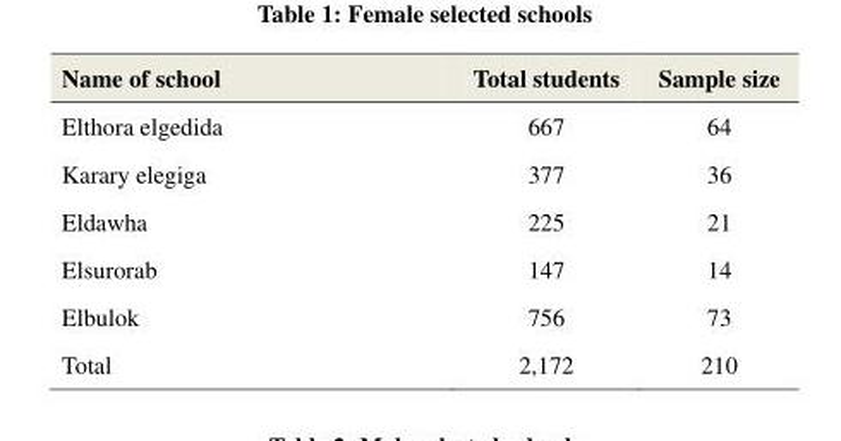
<table><thead><tr><td>Name of school</td><td>Total students</td><td>Sample size</td></tr></thead><tbody><tr><td>Elthora elgedida</td><td>667</td><td>64</td></tr><tr><td>Karary elegiga</td><td>377</td><td>36</td></tr><tr><td>Eldawha</td><td>225</td><td>21</td></tr><tr><td>Elsurorab</td><td>147</td><td>14</td></tr><tr><td>Elbulok</td><td>756</td><td>73</td></tr><tr><td>Total</td><td>2,172</td><td>210</td></tr></tbody></table>